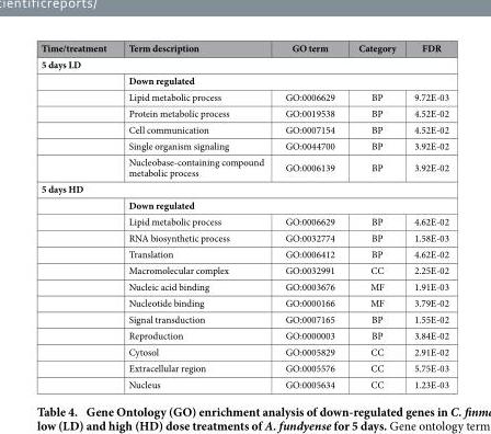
<table><thead><tr><td>Time/treatment</td><td>Term description</td><td>GO term</td><td>Category</td><td>FDR</td></tr></thead><tbody><tr><td colspan="5">5 days LD</td></tr><tr><td></td><td colspan="4">Down regulated</td></tr><tr><td></td><td>Lipid metabolic process</td><td>GO:0006629</td><td>BP</td><td>9.72E-03</td></tr><tr><td></td><td>Protein metabolic process</td><td>GO:0019538</td><td>BP</td><td>4.52E-02</td></tr><tr><td></td><td>Cell communication</td><td>GO:0007154</td><td>BP</td><td>4.52E-02</td></tr><tr><td></td><td>Single organism signaling</td><td>GO:0044700</td><td>BP</td><td>3.92E-02</td></tr><tr><td></td><td>Nucleobase-containing compound metabolic process</td><td>GO:0006139</td><td>BP</td><td>3.92E-02</td></tr><tr><td colspan="5">5 days HD</td></tr><tr><td></td><td colspan="4">Down regulated</td></tr><tr><td></td><td>Lipid metabolic process</td><td>GO:0006629</td><td>BP</td><td>4.62E-02</td></tr><tr><td></td><td>RNA biosynthetic process</td><td>GO:0032774</td><td>BP</td><td>1.58E-03</td></tr><tr><td></td><td>Translation</td><td>GO:0006412</td><td>BP</td><td>4.62E-02</td></tr><tr><td></td><td>Macromolecular complex</td><td>GO:0032991</td><td>CC</td><td>2.25E-02</td></tr><tr><td></td><td>Nucleic acid binding</td><td>GO:0003676</td><td>MF</td><td>1.91E-03</td></tr><tr><td></td><td>Nucleotide binding</td><td>GO:0000166</td><td>MF</td><td>3.79E-02</td></tr><tr><td></td><td>Signal transduction</td><td>GO:0007165</td><td>BP</td><td>1.55E-02</td></tr><tr><td></td><td>Reproduction</td><td>GO:0000003</td><td>BP</td><td>3.84E-02</td></tr><tr><td></td><td>Cytosol</td><td>GO:0005829</td><td>CC</td><td>2.91E-02</td></tr><tr><td></td><td>Extracellular region</td><td>GO:0005576</td><td>CC</td><td>5.75E-03</td></tr><tr><td></td><td>Nucleus</td><td>GO:0005634</td><td>CC</td><td>1.23E-03</td></tr></tbody></table>